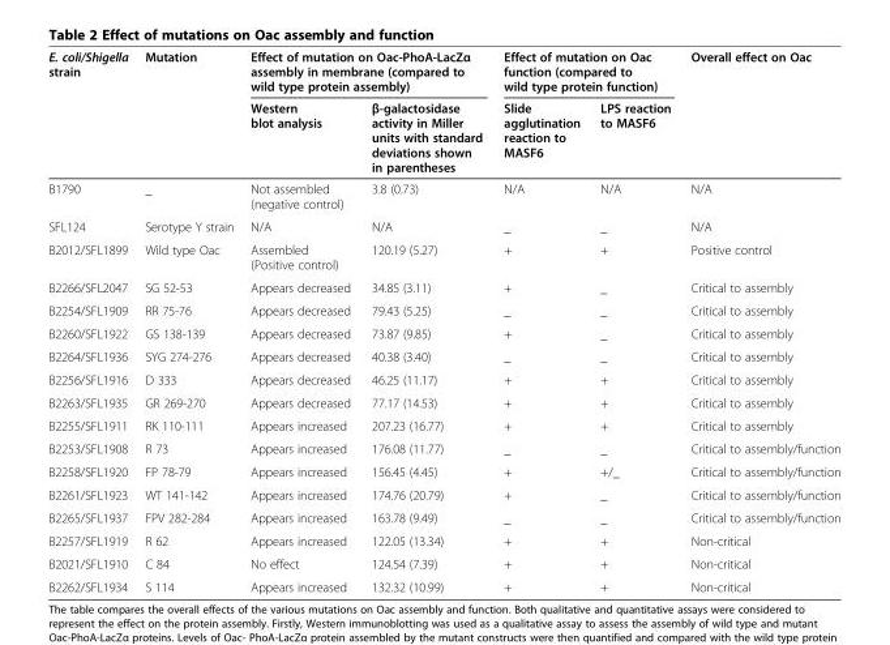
<table><thead><tr><td rowspan="2">E. coli/Shigella strain</td><td rowspan="2">Mutation</td><td colspan="2">Effect of mutation on Oac-PhoA-LacZα assembly in membrane (compared to wild type protein assembly)</td><td colspan="2">Effect of mutation on Oac function (compared to wild type protein function)</td><td rowspan="2">Overall effect on Oac</td></tr><tr><td>Western blot analysis</td><td>β-galactosidase activity in Miller units with standard deviations shown in parentheses</td><td>Slide agglutination reaction to MASF6</td><td>LPS reaction to MASF6</td></tr></thead><tbody><tr><td>B1790</td><td>_</td><td>Not assembled (negative control)</td><td>3.8 (0.73)</td><td>N/A</td><td>N/A</td><td>N/A</td></tr><tr><td>SFL124</td><td>Serotype Y strain</td><td>N/A</td><td>N/A</td><td>_</td><td>_</td><td>N/A</td></tr><tr><td>B2012/SFL1899</td><td>Wild type Oac</td><td>Assembled (Positive control)</td><td>120.19 (5.27)</td><td>+</td><td>+</td><td>Positive control</td></tr><tr><td>B2266/SFL2047</td><td>SG 52-53</td><td>Appears decreased</td><td>34.85 (3.11)</td><td>+</td><td>_</td><td>Critical to assembly</td></tr><tr><td>B2254/SFL1909</td><td>RR 75-76</td><td>Appears decreased</td><td>79.43 (5.25)</td><td>_</td><td>_</td><td>Critical to assembly</td></tr><tr><td>B2260/SFL1922</td><td>GS 138-139</td><td>Appears decreased</td><td>73.87 (9.85)</td><td>+</td><td>_</td><td>Critical to assembly</td></tr><tr><td>B2264/SFL1936</td><td>SYG 274-276</td><td>Appears decreased</td><td>40.38 (3.40)</td><td>_</td><td>_</td><td>Critical to assembly</td></tr><tr><td>B2256/SFL1916</td><td>D 333</td><td>Appears decreased</td><td>46.25 (11.17)</td><td>+</td><td>+</td><td>Critical to assembly</td></tr><tr><td>B2263/SFL1935</td><td>GR 269-270</td><td>Appears decreased</td><td>77.17 (14.53)</td><td>+</td><td>+</td><td>Critical to assembly</td></tr><tr><td>B2255/SFL1911</td><td>RK 110-111</td><td>Appears increased</td><td>207.23 (16.77)</td><td>+</td><td>+</td><td>Critical to assembly</td></tr><tr><td>B2253/SFL1908</td><td>R 73</td><td>Appears increased</td><td>176.08 (11.77)</td><td>_</td><td>_</td><td>Critical to assembly/function</td></tr><tr><td>B2258/SFL1920</td><td>FP 78-79</td><td>Appears increased</td><td>156.45 (4.45)</td><td>+</td><td>+/_</td><td>Critical to assembly/function</td></tr><tr><td>B2261/SFL1923</td><td>WT 141-142</td><td>Appears increased</td><td>174.76 (20.79)</td><td>+</td><td>_</td><td>Critical to assembly/function</td></tr><tr><td>B2265/SFL1937</td><td>FPV 282-284</td><td>Appears increased</td><td>163.78 (9.49)</td><td>_</td><td>_</td><td>Critical to assembly/function</td></tr><tr><td>B2257/SFL1919</td><td>R 62</td><td>Appears increased</td><td>122.05 (13.34)</td><td>+</td><td>+</td><td>Non-critical</td></tr><tr><td>B2021/SFL1910</td><td>C 84</td><td>No effect</td><td>124.54 (7.39)</td><td>+</td><td>+</td><td>Non-critical</td></tr><tr><td>B2262/SFL1934</td><td>S 114</td><td>Appears increased</td><td>132.32 (10.99)</td><td>+</td><td>+</td><td>Non-critical</td></tr></tbody></table>